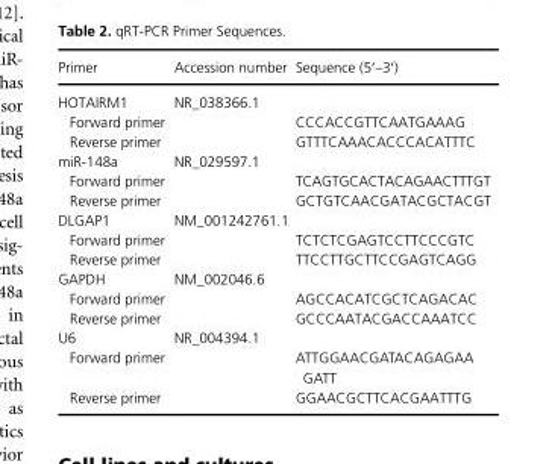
<table><thead><tr><td>Primer</td><td>Accession number</td><td>Sequence (5′–3′)</td></tr></thead><tbody><tr><td>HOTAIRM1</td><td>NR_038366.1</td><td></td></tr><tr><td>Forward primer</td><td></td><td>CCCACCGTTCAATGAAAG</td></tr><tr><td>Reverse primer</td><td></td><td>GTTTCAAACACCCACATTTC</td></tr><tr><td>miR- 148a</td><td>NR_029597.1</td><td></td></tr><tr><td>Forward primer</td><td></td><td>TCAGTGCACTACAGAACTTTGT</td></tr><tr><td>Reverse primer</td><td></td><td>GCTGTCAACGATACGCTACGT</td></tr><tr><td>DLGAP1</td><td>NM_001242761.1</td><td></td></tr><tr><td>Forward primer</td><td></td><td>TCTCTCGAGTCCTTCCCGTC</td></tr><tr><td>Reverse primer</td><td></td><td>TTCCTTGCTTCCGAGTCAGG</td></tr><tr><td>GAPDH</td><td>NM_002046.6</td><td></td></tr><tr><td>Forward primer</td><td></td><td>AGCCACATCGCTCAGACAC</td></tr><tr><td>Reverse primer</td><td></td><td>GCCCAATACGACCAAATCC</td></tr><tr><td>U6</td><td>NR_004394.1</td><td></td></tr><tr><td>Forward primer</td><td></td><td>ATTGGAACGATACAGAGAA GATT</td></tr><tr><td>Reverse primer</td><td></td><td>GGAACGCTTCACGAATTTG</td></tr></tbody></table>